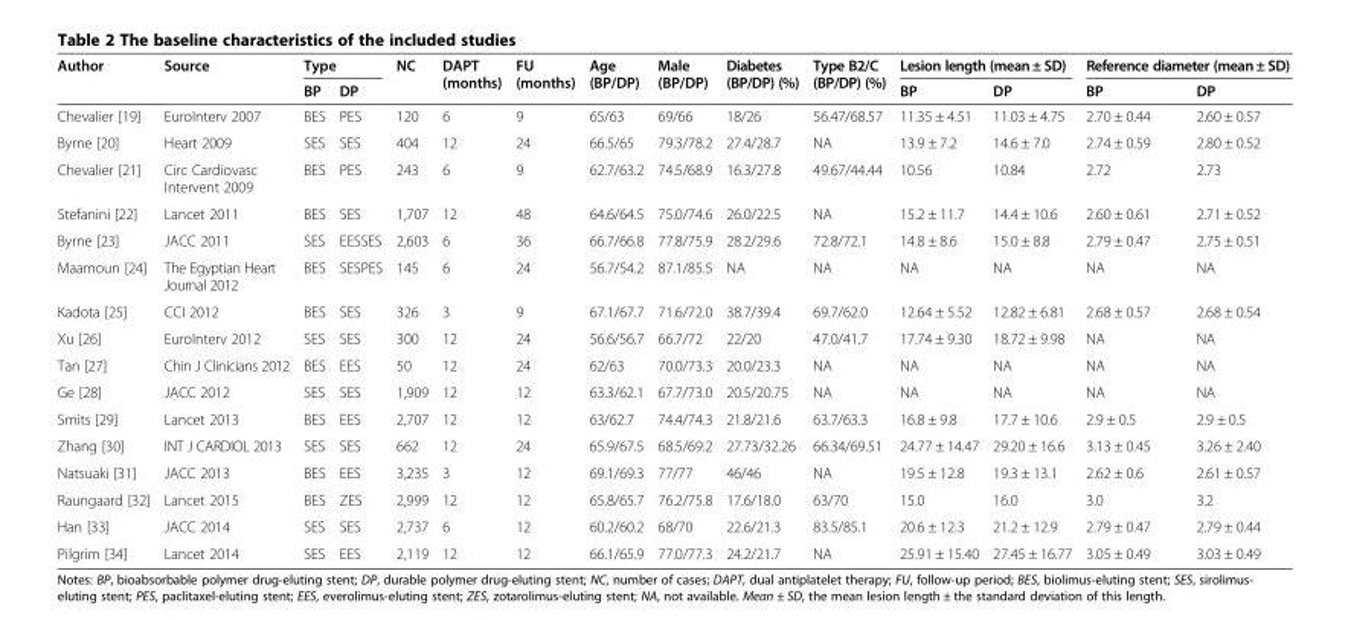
<table><thead><tr><td rowspan="2">Author</td><td rowspan="2">Source</td><td colspan="2">Type</td><td rowspan="2">NC</td><td rowspan="2">DAPT (months)</td><td rowspan="2">FU (months)</td><td rowspan="2">Age (BP/DP)</td><td rowspan="2">Male (BP/DP)</td><td rowspan="2">Diabetes (BP/DP) (%)</td><td rowspan="2">Type B2/C (BP/DP) (%)</td><td colspan="2">Lesion length (mean ± SD)</td><td colspan="2">Reference diameter (mean ± SD)</td></tr><tr><td>BP</td><td>DP</td><td>BP</td><td>DP</td><td>BP</td><td>DP</td></tr></thead><tbody><tr><td>Chevalier [19]</td><td>EuroInterv 2007</td><td>BES</td><td>PES</td><td>120</td><td>6</td><td>9</td><td>65/63</td><td>69/66</td><td>18/26</td><td>56.47/68.57</td><td>11.35 ± 4.51</td><td>11.03 ± 4.75</td><td>2.70 ± 0.44</td><td>2.60 ± 0.57</td></tr><tr><td>Byrne [20]</td><td>Heart 2009</td><td>SES</td><td>SES</td><td>404</td><td>12</td><td>24</td><td>66.5/65</td><td>79.3/78.2</td><td>27.4/28.7</td><td>NA</td><td>13.9 ± 7.2</td><td>14.6 ± 7.0</td><td>2.74 ± 0.59</td><td>2.80 ± 0.52</td></tr><tr><td>Chevalier [21]</td><td>Circ Cardiovasc Intervent 2009</td><td>BES</td><td>PES</td><td>243</td><td>6</td><td>9</td><td>62.7/63.2</td><td>74.5/68.9</td><td>16.3/27.8</td><td>49.67/44.44</td><td>10.56</td><td>10.84</td><td>2.72</td><td>2.73</td></tr><tr><td>Stefanini [22]</td><td>Lancet 2011</td><td>BES</td><td>SES</td><td>1,707</td><td>12</td><td>48</td><td>64.6/64.5</td><td>75.0/74.6</td><td>26.0/22.5</td><td>NA</td><td>15.2 ± 11.7</td><td>14.4 ± 10.6</td><td>2.60 ± 0.61</td><td>2.71 ± 0.52</td></tr><tr><td>Byrne [23]</td><td>JACC 2011</td><td>SES</td><td>EESSES</td><td>2,603</td><td>6</td><td>36</td><td>66.7/66.8</td><td>77.8/75.9</td><td>28.2/29.6</td><td>72.8/72.1</td><td>14.8 ± 8.6</td><td>15.0 ± 8.8</td><td>2.79 ± 0.47</td><td>2.75 ± 0.51</td></tr><tr><td>Maamoun [24]</td><td>The Egyptian Heart Journal 2012</td><td>BES</td><td>SESPES</td><td>145</td><td>6</td><td>24</td><td>56.7/54.2</td><td>87.1/85.5</td><td>NA</td><td>NA</td><td>NA</td><td>NA</td><td>NA</td><td>NA</td></tr><tr><td>Kadota [25]</td><td>CCI 2012</td><td>BES</td><td>SES</td><td>326</td><td>3</td><td>9</td><td>67.1/67.7</td><td>71.6/72.0</td><td>38.7/39.4</td><td>69.7/62.0</td><td>12.64 ± 5.52</td><td>12.82 ± 6.81</td><td>2.68 ± 0.57</td><td>2.68 ± 0.54</td></tr><tr><td>Xu [26]</td><td>EuroInterv 2012</td><td>SES</td><td>SES</td><td>300</td><td>12</td><td>24</td><td>56.6/56.7</td><td>66.7/72</td><td>22/20</td><td>47.0/41.7</td><td>17.74 ± 9.30</td><td>18.72 ± 9.98</td><td>NA</td><td>NA</td></tr><tr><td>Tan [27]</td><td>Chin J Clinicians 2012</td><td>BES</td><td>EES</td><td>50</td><td>12</td><td>24</td><td>62/63</td><td>70.0/73.3</td><td>20.0/23.3</td><td>NA</td><td>NA</td><td>NA</td><td>NA</td><td>NA</td></tr><tr><td>Ge [28]</td><td>JACC 2012</td><td>SES</td><td>SES</td><td>1,909</td><td>12</td><td>12</td><td>63.3/62.1</td><td>67.7/73.0</td><td>20.5/20.75</td><td>NA</td><td>NA</td><td>NA</td><td>NA</td><td>NA</td></tr><tr><td>Smits [29]</td><td>Lancet 2013</td><td>BES</td><td>EES</td><td>2,707</td><td>12</td><td>12</td><td>63/62.7</td><td>74.4/74.3</td><td>21.8/21.6</td><td>63.7/63.3</td><td>16.8 ± 9.8</td><td>17.7 ± 10.6</td><td>2.9 ± 0.5</td><td>2.9 ± 0.5</td></tr><tr><td>Zhang [30]</td><td>INT J CARDIOL 2013</td><td>SES</td><td>SES</td><td>662</td><td>12</td><td>24</td><td>65.9/67.5</td><td>68.5/69.2</td><td>27.73/32.26</td><td>66.34/69.51</td><td>24.77 ± 14.47</td><td>29.20 ± 16.6</td><td>3.13 ± 0.45</td><td>3.26 ± 2.40</td></tr><tr><td>Natsuaki [31]</td><td>JACC 2013</td><td>BES</td><td>EES</td><td>3,235</td><td>3</td><td>12</td><td>69.1/69.3</td><td>77/77</td><td>46/46</td><td>NA</td><td>19.5 ± 12.8</td><td>19.3 ± 13.1</td><td>2.62 ± 0.6</td><td>2.61 ± 0.57</td></tr><tr><td>Raungaard [32]</td><td>Lancet 2015</td><td>BES</td><td>ZES</td><td>2,999</td><td>12</td><td>12</td><td>65.8/65.7</td><td>76.2/75.8</td><td>17.6/18.0</td><td>63/70</td><td>15.0</td><td>16.0</td><td>3.0</td><td>3.2</td></tr><tr><td>Han [33]</td><td>JACC 2014</td><td>SES</td><td>SES</td><td>2,737</td><td>6</td><td>12</td><td>60.2/60.2</td><td>68/70</td><td>22.6/21.3</td><td>83.5/85.1</td><td>20.6 ± 12.3</td><td>21.2 ± 12.9</td><td>2.79 ± 0.47</td><td>2.79 ± 0.44</td></tr><tr><td>Pilgrim [34]</td><td>Lancet 2014</td><td>SES</td><td>EES</td><td>2,119</td><td>12</td><td>12</td><td>66.1/65.9</td><td>77.0/77.3</td><td>24.2/21.7</td><td>NA</td><td>25.91 ± 15.40</td><td>27.45 ± 16.77</td><td>3.05 ± 0.49</td><td>3.03 ± 0.49</td></tr></tbody></table>